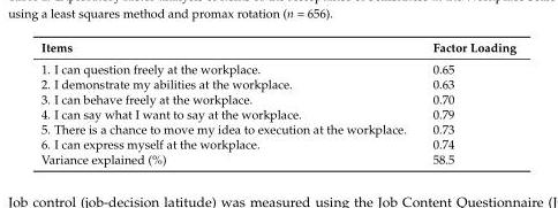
<table><thead><tr><td>Items</td><td>Factor Loading</td></tr></thead><tbody><tr><td>1. I can question freely at the workplace.</td><td>0.65</td></tr><tr><td>2. I demonstrate my abilities at the workplace.</td><td>0.63</td></tr><tr><td>3. I can behave freely at the workplace.</td><td>0.70</td></tr><tr><td>4. I can say what I want to say at the workplace.</td><td>0.79</td></tr><tr><td>5. There is a chance to move my idea to execution at the workplace.</td><td>0.73</td></tr><tr><td>6. I can express myself at the workplace.</td><td>0.74</td></tr><tr><td>Variance explained (%)</td><td>58.5</td></tr></tbody></table>